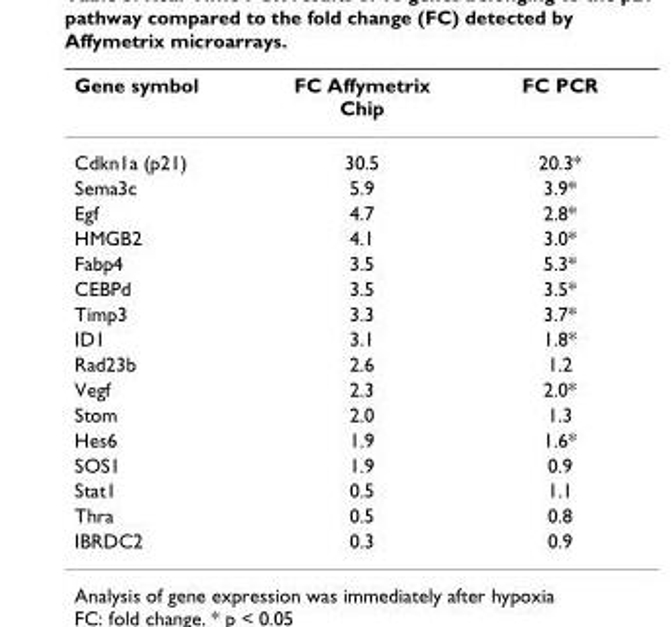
<table><thead><tr><td>Gene symbol</td><td>FC Affymetrix Chip</td><td>FC PCR</td></tr></thead><tbody><tr><td>Cdkn1a (p21)</td><td>30.5</td><td>20.3*</td></tr><tr><td>Sema3c</td><td>5.9</td><td>3.9*</td></tr><tr><td>Egf</td><td>4.7</td><td>2.8*</td></tr><tr><td>HMGB2</td><td>4.1</td><td>3.0*</td></tr><tr><td>Fabp4</td><td>3.5</td><td>5.3*</td></tr><tr><td>CEBPd</td><td>3.5</td><td>3.5*</td></tr><tr><td>Timp3</td><td>3.3</td><td>3.7*</td></tr><tr><td>ID1</td><td>3.1</td><td>1.8*</td></tr><tr><td>Rad23b</td><td>2.6</td><td>1.2</td></tr><tr><td>Vegf</td><td>2.3</td><td>2.0*</td></tr><tr><td>Stom</td><td>2.0</td><td>1.3</td></tr><tr><td>Hes6</td><td>1.9</td><td>1.6*</td></tr><tr><td>SOS1</td><td>1.9</td><td>0.9</td></tr><tr><td>Stat1</td><td>0.5</td><td>1.1</td></tr><tr><td>Thra</td><td>0.5</td><td>0.8</td></tr><tr><td>IBRDC2</td><td>0.3</td><td>0.9</td></tr></tbody></table>